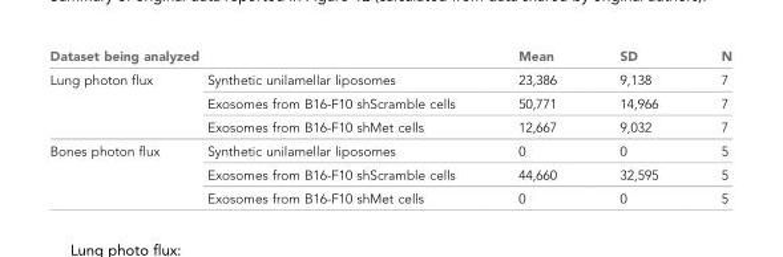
<table><thead><tr><td>Dataset being analyzed</td><td></td><td>Mean</td><td>SD</td><td>N</td></tr></thead><tbody><tr><td rowspan="3">Lung photon flux</td><td>Synthetic unilamellar liposomes</td><td>23,386</td><td>9,138</td><td>7</td></tr><tr><td>Exosomes from B16-F10 shScramble cells</td><td>50,771</td><td>14,966</td><td>7</td></tr><tr><td>Exosomes from B16-F10 shMet cells</td><td>12,667</td><td>9,032</td><td>7</td></tr><tr><td rowspan="3">Bones photon flux</td><td>Synthetic unilamellar liposomes</td><td>0</td><td>0</td><td>5</td></tr><tr><td>Exosomes from B16-F10 shScramble cells</td><td>44,660</td><td>32,595</td><td>5</td></tr><tr><td>Exosomes from B16-F10 shMet cells</td><td>0</td><td>0</td><td>5</td></tr></tbody></table>